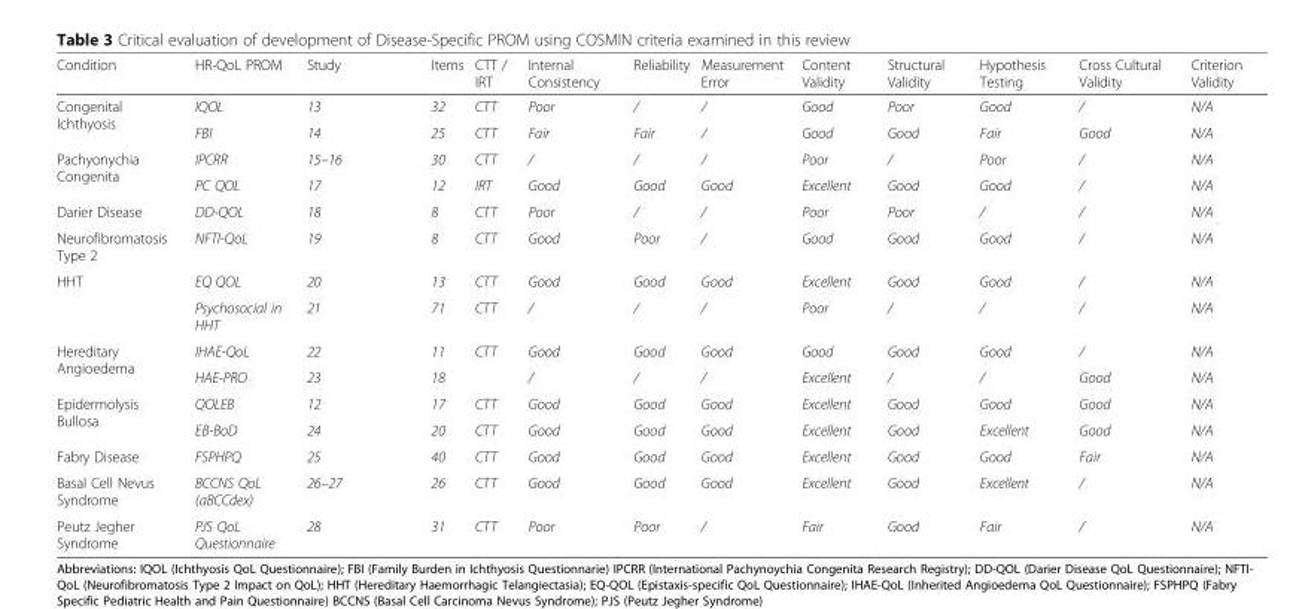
<table><thead><tr><td>Condition</td><td>HR-QoL PROM</td><td>Study</td><td>Items</td><td>CTT / IRT</td><td>Internal Consistency</td><td>Reliability</td><td>Measurement Error</td><td>Content Validity</td><td>Structural Validity</td><td>Hypothesis Testing</td><td>Cross Cultural Validity</td><td>Criterion Validity</td></tr></thead><tbody><tr><td rowspan="2">Congenital Ichthyosis</td><td>IQOL</td><td>13</td><td>32</td><td>CTT</td><td>Poor</td><td>/</td><td>/</td><td>Good</td><td>Poor</td><td>Good</td><td>/</td><td>N/A</td></tr><tr><td>FBI</td><td>14</td><td>25</td><td>CTT</td><td>Fair</td><td>Fair</td><td>/</td><td>Good</td><td>Good</td><td>Fair</td><td>Good</td><td>N/A</td></tr><tr><td rowspan="2">Pachyonychia Congenita</td><td>IPCRR</td><td>15–16</td><td>30</td><td>CTT</td><td>/</td><td>/</td><td>/</td><td>Poor</td><td>/</td><td>Poor</td><td>/</td><td>N/A</td></tr><tr><td>PC QOL</td><td>17</td><td>12</td><td>IRT</td><td>Good</td><td>Good</td><td>Good</td><td>Excellent</td><td>Good</td><td>Good</td><td>/</td><td>N/A</td></tr><tr><td>Darier Disease</td><td>DD-QOL</td><td>18</td><td>8</td><td>CTT</td><td>Poor</td><td>/</td><td>/</td><td>Poor</td><td>Poor</td><td>/</td><td>/</td><td>N/A</td></tr><tr><td>Neurofibromatosis Type 2</td><td>NFTI-QoL</td><td>19</td><td>8</td><td>CTT</td><td>Good</td><td>Poor</td><td>/</td><td>Good</td><td>Good</td><td>Good</td><td>/</td><td>N/A</td></tr><tr><td rowspan="2">HHT</td><td>EQ QOL</td><td>20</td><td>13</td><td>CTT</td><td>Good</td><td>Good</td><td>Good</td><td>Excellent</td><td>Good</td><td>Good</td><td>/</td><td>N/A</td></tr><tr><td>Psychosocial in HHT</td><td>21</td><td>71</td><td>CTT</td><td>/</td><td>/</td><td>/</td><td>Poor</td><td>/</td><td>/</td><td>/</td><td>N/A</td></tr><tr><td rowspan="2">Hereditary Angioedema</td><td>IHAE-QoL</td><td>22</td><td>11</td><td>CTT</td><td>Good</td><td>Good</td><td>Good</td><td>Good</td><td>Good</td><td>Good</td><td>/</td><td>N/A</td></tr><tr><td>HAE-PRO</td><td>23</td><td>18</td><td></td><td>/</td><td>/</td><td>/</td><td>Excellent</td><td>/</td><td>/</td><td>Good</td><td>N/A</td></tr><tr><td rowspan="2">Epidermolysis Bullosa</td><td>QOLEB</td><td>12</td><td>17</td><td>CTT</td><td>Good</td><td>Good</td><td>Good</td><td>Excellent</td><td>Good</td><td>Good</td><td>Good</td><td>N/A</td></tr><tr><td>EB-BoD</td><td>24</td><td>20</td><td>CTT</td><td>Good</td><td>Good</td><td>Good</td><td>Excellent</td><td>Good</td><td>Excellent</td><td>Good</td><td>N/A</td></tr><tr><td>Fabry Disease</td><td>FSPHPQ</td><td>25</td><td>40</td><td>CTT</td><td>Good</td><td>Good</td><td>Good</td><td>Excellent</td><td>Good</td><td>Good</td><td>Fair</td><td>N/A</td></tr><tr><td>Basal Cell Nevus Syndrome</td><td>BCCNS QoL (aBCCdex)</td><td>26–27</td><td>26</td><td>CTT</td><td>Good</td><td>Good</td><td>Good</td><td>Excellent</td><td>Good</td><td>Excellent</td><td>/</td><td>N/A</td></tr><tr><td>Peutz Jegher Syndrome</td><td>PJS QoL Questionnaire</td><td>28</td><td>31</td><td>CTT</td><td>Poor</td><td>Poor</td><td>/</td><td>Fair</td><td>Good</td><td>Fair</td><td>/</td><td>N/A</td></tr></tbody></table>